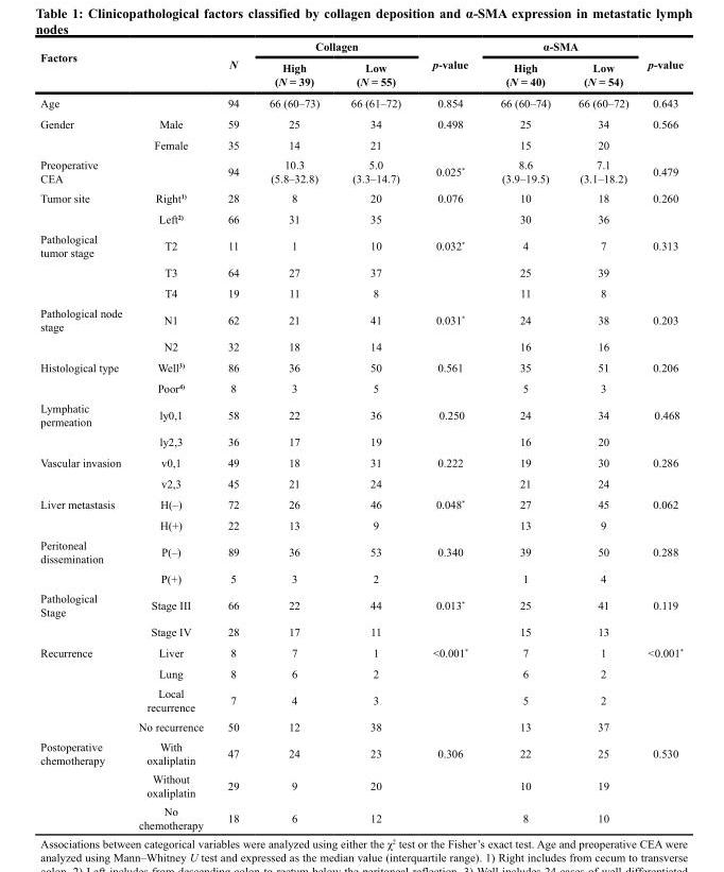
<table><thead><tr><td rowspan="2" colspan="2">Factors</td><td rowspan="3">N 94</td><td colspan="2">collagen</td><td rowspan="3">p-value 0.854</td><td colspan="2">α-SMA</td><td rowspan="3">p-value 0.643</td></tr><tr><td rowspan="2">High (N = 39) 66 (60–73)</td><td rowspan="2">Low (N = 55) 66 (61–72)</td><td rowspan="2">High (N = 40) 66 (60–74)</td><td rowspan="2">Low (N = 54) 66 (60–72)</td></tr><tr><td>Age</td><td></td></tr></thead><tbody><tr><td rowspan="2">Gender</td><td>Male</td><td>59</td><td>25</td><td>34</td><td>0.498</td><td>25</td><td>34</td><td>0.566</td></tr><tr><td>Female</td><td>35</td><td>14</td><td>21</td><td></td><td>15</td><td>20</td><td></td></tr><tr><td>Preoperative CEA</td><td></td><td>94</td><td>10.3 (5.8–32.8)</td><td>5.0 (3.3–14.7)</td><td>0.025*</td><td>8.6 (3.9–19.5)</td><td>7.1 (3.1–18.2)</td><td>0.479</td></tr><tr><td rowspan="2">Tumor site</td><td>Right<sup>1)</sup></td><td>28</td><td>8</td><td>20</td><td>0.076</td><td>10</td><td>18</td><td>0.260</td></tr><tr><td>Left<sup>2)</sup></td><td>66</td><td>31</td><td>35</td><td></td><td>30</td><td>36</td><td></td></tr><tr><td rowspan="3">Pathological tumor stage</td><td>T2</td><td>11</td><td>1</td><td>10</td><td>0.032*</td><td>4</td><td>7</td><td>0.313</td></tr><tr><td>T3</td><td>64</td><td>27</td><td>37</td><td></td><td>25</td><td>39</td><td></td></tr><tr><td>T4</td><td>19</td><td>11</td><td>8</td><td></td><td>11</td><td>8</td><td></td></tr><tr><td rowspan="2">Pathological node stage</td><td>N1</td><td>62</td><td>21</td><td>41</td><td>0.031*</td><td>24</td><td>38</td><td>0.203</td></tr><tr><td>N2</td><td>32</td><td>18</td><td>14</td><td></td><td>16</td><td>16</td><td></td></tr><tr><td rowspan="2">Histological type</td><td>Well<sup>3)</sup></td><td>86</td><td>36</td><td>50</td><td>0.561</td><td>35</td><td>51</td><td>0.206</td></tr><tr><td>Poor<sup>4)</sup></td><td>8</td><td>3</td><td>5</td><td></td><td>5</td><td>3</td><td></td></tr><tr><td rowspan="2">Lymphatic permeation</td><td>ly0,1</td><td>58</td><td>22</td><td>36</td><td>0.250</td><td>24</td><td>34</td><td>0.468</td></tr><tr><td>ly2,3</td><td>36</td><td>17</td><td>19</td><td></td><td>16</td><td>20</td><td></td></tr><tr><td rowspan="2">Vascular invasion</td><td>v0,1</td><td>49</td><td>18</td><td>31</td><td>0.222</td><td>19</td><td>30</td><td>0.286</td></tr><tr><td>v2,3</td><td>45</td><td>21</td><td>24</td><td></td><td>21</td><td>24</td><td></td></tr><tr><td rowspan="2">Liver metastasis</td><td>H(–)</td><td>72</td><td>26</td><td>46</td><td>0.048*</td><td>27</td><td>45</td><td>0.062</td></tr><tr><td>H(+)</td><td>22</td><td>13</td><td>9</td><td></td><td>13</td><td>9</td><td></td></tr><tr><td rowspan="2">Peritoneal dissemination</td><td>P(–)</td><td>89</td><td>36</td><td>53</td><td>0.340</td><td>39</td><td>50</td><td>0.288</td></tr><tr><td>P(+)</td><td>5</td><td>3</td><td>2</td><td></td><td>1</td><td>4</td><td></td></tr><tr><td rowspan="2">Pathological Stage</td><td>Stage III</td><td>66</td><td>22</td><td>44</td><td>0.013*</td><td>25</td><td>41</td><td>0.119</td></tr><tr><td>Stage IV</td><td>28</td><td>17</td><td>11</td><td></td><td>15</td><td>13</td><td></td></tr><tr><td rowspan="4">Recurrence</td><td>Liver</td><td>8</td><td>7</td><td>1</td><td>&lt;0.001*</td><td>7</td><td>1</td><td>&lt;0.001*</td></tr><tr><td>Lung</td><td>8</td><td>6</td><td>2</td><td></td><td>6</td><td>2</td><td></td></tr><tr><td>Local recurrence</td><td>7</td><td>4</td><td>3</td><td></td><td>5</td><td>2</td><td></td></tr><tr><td>No recurrence</td><td>50</td><td>12</td><td>38</td><td></td><td>13</td><td>37</td><td></td></tr><tr><td rowspan="3">Postoperative chemotherapy</td><td>With oxaliplatin</td><td>47</td><td>24</td><td>23</td><td>0.306</td><td>22</td><td>25</td><td>0.530</td></tr><tr><td>Without oxaliplatin</td><td>29</td><td>9</td><td>20</td><td></td><td>10</td><td>19</td><td></td></tr><tr><td>No chemotherapy</td><td>18</td><td>6</td><td>12</td><td></td><td>8</td><td>10</td><td></td></tr></tbody></table>